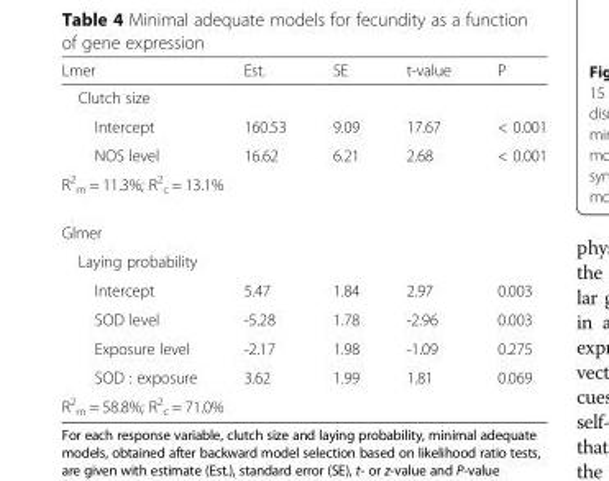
<table><thead><tr><td>Lmer</td><td>Est.</td><td>SE</td><td>t-value</td><td>P</td></tr></thead><tbody><tr><td colspan="5">Clutch size</td></tr><tr><td>Intercept</td><td>160.53</td><td>9.09</td><td>17.67</td><td>&lt; 0.001</td></tr><tr><td>NOS level</td><td>16.62</td><td>6.21</td><td>2.68</td><td>&lt; 0.001</td></tr><tr><td colspan="5">R<sup>2</sup> <sub>m</sub> = 11.3%; R<sup>2</sup> <sub>c</sub> = 13.1%</td></tr><tr><td colspan="5">Glmer</td></tr><tr><td colspan="5">Laying probability</td></tr><tr><td>Intercept</td><td>5.47</td><td>1.84</td><td>2.97</td><td>0.003</td></tr><tr><td>SOD level</td><td>-5.28</td><td>1.78</td><td>-2.96</td><td>0.003</td></tr><tr><td>Exposure level</td><td>-2.17</td><td>1.98</td><td>-1.09</td><td>0.275</td></tr><tr><td>SOD : exposure</td><td>3.62</td><td>1.99</td><td>1.81</td><td>0.069</td></tr><tr><td colspan="5">R<sup>2</sup> <sub>m</sub> = 58.8%; R<sup>2</sup> <sub>c</sub> = 71.0%</td></tr></tbody></table>